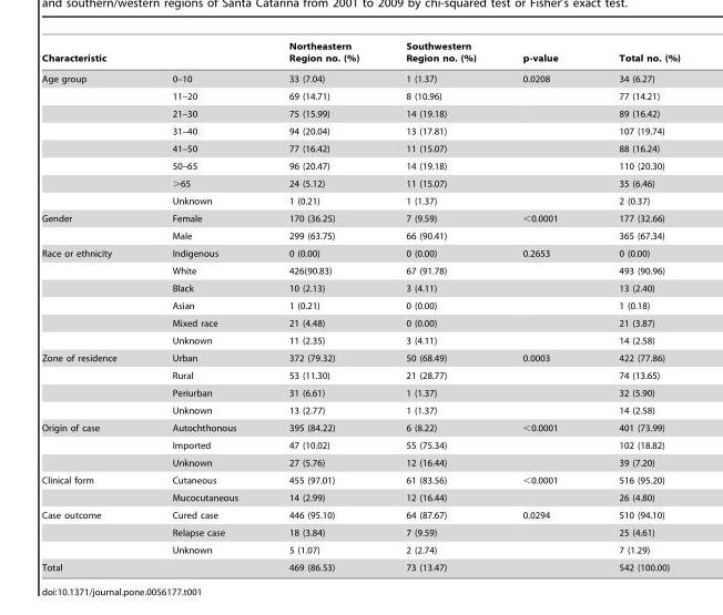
<table><thead><tr><td>Characteristic</td><td></td><td>Northeastern Region no. (%)</td><td>Southwestern Region no. (%)</td><td>p-value</td><td>Total no. (%)</td></tr></thead><tbody><tr><td rowspan="8">Age group</td><td>0–10</td><td>33 (7.04)</td><td>1 (1.37)</td><td>0.0208</td><td>34 (6.27)</td></tr><tr><td>11–20</td><td>69 (14.71)</td><td>8 (10.96)</td><td></td><td>77 (14.21)</td></tr><tr><td>21–30</td><td>75 (15.99)</td><td>14 (19.18)</td><td></td><td>89 (16.42)</td></tr><tr><td>31–40</td><td>94 (20.04)</td><td>13 (17.81)</td><td></td><td>107 (19.74)</td></tr><tr><td>41–50</td><td>77 (16.42)</td><td>11 (15.07)</td><td></td><td>88 (16.24)</td></tr><tr><td>50–65</td><td>96 (20.47)</td><td>14 (19.18)</td><td></td><td>110 (20.30)</td></tr><tr><td>&gt;65</td><td>24 (5.12)</td><td>11 (15.07)</td><td></td><td>35 (6.46)</td></tr><tr><td>Unknown</td><td>1 (0.21)</td><td>1 (1.37)</td><td></td><td>2 (0.37)</td></tr><tr><td rowspan="2">Gender</td><td>Female</td><td>170 (36.25)</td><td>7 (9.59)</td><td>&lt;0.0001</td><td>177 (32.66)</td></tr><tr><td>Male</td><td>299 (63.75)</td><td>66 (90.41)</td><td></td><td>365 (67.34)</td></tr><tr><td rowspan="6">Race or ethnicity</td><td>Indigenous</td><td>0 (0.00)</td><td>0 (0.00)</td><td>0.2653</td><td>0 (0.00)</td></tr><tr><td>White</td><td>426(90.83)</td><td>67 (91.78)</td><td></td><td>493 (90.96)</td></tr><tr><td>Black</td><td>10 (2.13)</td><td>3 (4.11)</td><td></td><td>13 (2.40)</td></tr><tr><td>Asian</td><td>1 (0.21)</td><td>0 (0.00)</td><td></td><td>1 (0.18)</td></tr><tr><td>Mixed race</td><td>21 (4.48)</td><td>0 (0.00)</td><td></td><td>21 (3.87)</td></tr><tr><td>Unknown</td><td>11 (2.35)</td><td>3 (4.11)</td><td></td><td>14 (2.58)</td></tr><tr><td rowspan="4">Zone of residence</td><td>Urban</td><td>372 (79.32)</td><td>50 (68.49)</td><td>0.0003</td><td>422 (77.86)</td></tr><tr><td>Rural</td><td>53 (11.30)</td><td>21 (28.77)</td><td></td><td>74 (13.65)</td></tr><tr><td>Periurban</td><td>31 (6.61)</td><td>1 (1.37)</td><td></td><td>32 (5.90)</td></tr><tr><td>Unknown</td><td>13 (2.77)</td><td>1 (1.37)</td><td></td><td>14 (2.58)</td></tr><tr><td rowspan="3">Origin of case</td><td>Autochthonous</td><td>395 (84.22)</td><td>6 (8.22)</td><td>&lt;0.0001</td><td>401 (73.99)</td></tr><tr><td>Imported</td><td>47 (10.02)</td><td>55 (75.34)</td><td></td><td>102 (18.82)</td></tr><tr><td>Unknown</td><td>27 (5.76)</td><td>12 (16.44)</td><td></td><td>39 (7.20)</td></tr><tr><td rowspan="2">Clinical form</td><td>Cutaneous</td><td>455 (97.01)</td><td>61 (83.56)</td><td>&lt;0.0001</td><td>516 (95.20)</td></tr><tr><td>Mucocutaneous</td><td>14 (2.99)</td><td>12 (16.44)</td><td></td><td>26 (4.80)</td></tr><tr><td rowspan="3">Case outcome</td><td>Cured case</td><td>446 (95.10)</td><td>64 (87.67)</td><td>0.0294</td><td>510 (94.10)</td></tr><tr><td>Relapse case</td><td>18 (3.84)</td><td>7 (9.59)</td><td></td><td>25 (4.61)</td></tr><tr><td>Unknown</td><td>5 (1.07)</td><td>2 (2.74)</td><td></td><td>7 (1.29)</td></tr><tr><td>Total</td><td></td><td>469 (86.53)</td><td>73 (13.47)</td><td></td><td>542 (100.00)</td></tr></tbody></table>